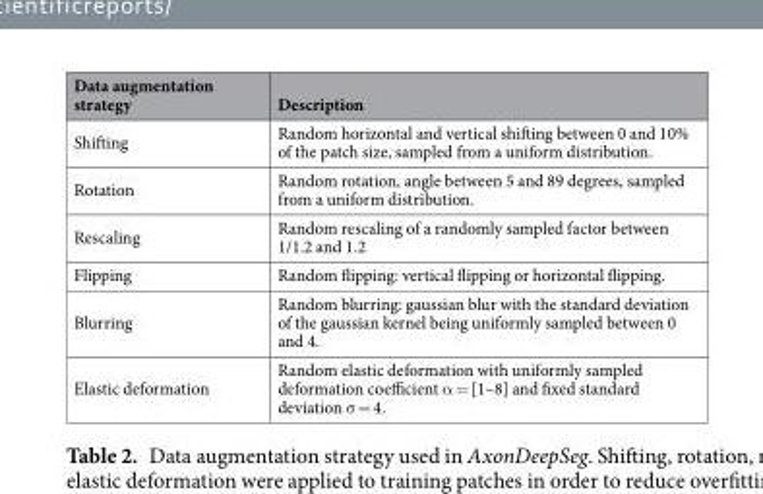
<table><thead><tr><td>Data augmentation strategy</td><td>Description</td></tr></thead><tbody><tr><td>Shifting</td><td>Random horizontal and vertical shifting between 0 and 10% of the patch size, sampled from a uniform distribution.</td></tr><tr><td>Rotation</td><td>Random rotation, angle between 5 and 89 degrees, sampled from a uniform distribution.</td></tr><tr><td>Rescaling</td><td>Random rescaling of a randomly sampled factor between 1/1.2 and 1.2</td></tr><tr><td>Flipping</td><td>Random flipping: vertical flipping or horizontal flipping.</td></tr><tr><td>Blurring</td><td>Random blurring: gaussian blur with the standard deviation of the gaussian kernel being uniformly sampled between 0 and 4.</td></tr><tr><td>Elastic deformation</td><td>Random elastic deformation with uniformly sampled deformation coefficient α = [1–8] and fixed standard deviation σ = 4.</td></tr></tbody></table>